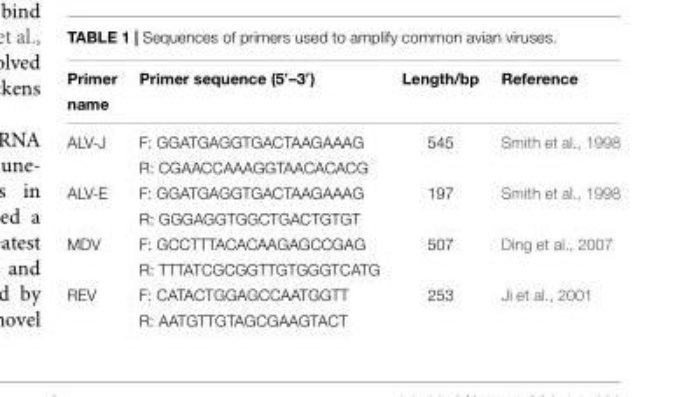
<table><thead><tr><td rowspan="2">Primer name</td><td rowspan="2">Primer sequence (5′–3′)</td><td rowspan="2">Length/bp</td><td rowspan="2">Reference</td></tr><tr></tr></thead><tbody><tr><td rowspan="2">ALV-J</td><td>F: GGATGAGGTGACTAAGAAAG</td><td>545</td><td>Smith et al., 1998</td></tr><tr><td>R: CGAACCAAAGGTAACACACG</td><td></td><td></td></tr><tr><td rowspan="2">ALV-E</td><td>F: GGATGAGGTGACTAAGAAAG</td><td>197</td><td>Smith et al., 1998</td></tr><tr><td>R: GGGAGGTGGCTGACTGTGT</td><td></td><td></td></tr><tr><td rowspan="2">MDV</td><td>F: GCCTTTACACAAGAGCCGAG</td><td>507</td><td>Ding et al., 2007</td></tr><tr><td>R: TTTATCGCGGTTGTGGGTCATG</td><td></td><td></td></tr><tr><td rowspan="2">REV</td><td>F: CATACTGGAGCCAATGGTT</td><td>253</td><td>Ji et al., 2001</td></tr><tr><td>R: AATGTTGTAGCGAAGTACT</td><td></td><td></td></tr></tbody></table>